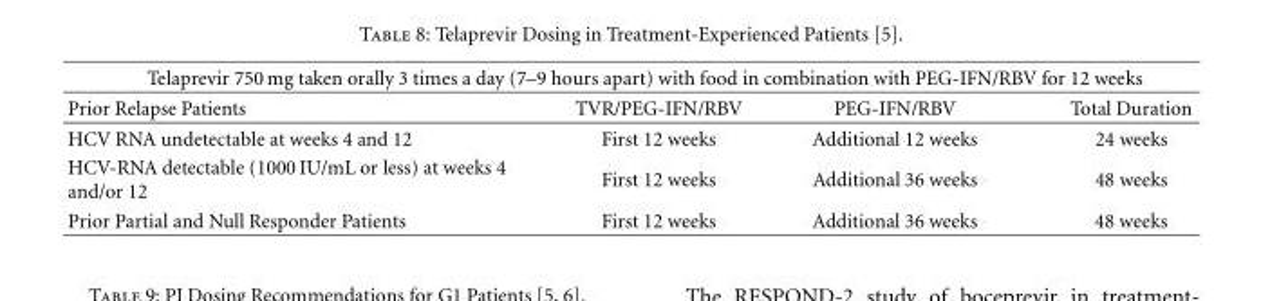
<table><thead><tr><td colspan="4">Telaprevir 750 mg taken orally 3 times a day (7–9 hours apart) with food in combination with PEG-IFN/RBV for 12 weeks</td></tr><tr><td>Prior Relapse Patients</td><td>TVR/PEG-IFN/RBV</td><td>PEG-IFN/RBV</td><td>Total Duration</td></tr></thead><tbody><tr><td>HCV RNA undetectable at weeks 4 and 12</td><td>First 12 weeks</td><td>Additional 12 weeks</td><td>24 weeks</td></tr><tr><td>HCV-RNA detectable (1000 IU/mL or less) at weeks 4 and/or 12</td><td>First 12 weeks</td><td>Additional 36 weeks</td><td>48 weeks</td></tr><tr><td>Prior Partial and Null Responder Patients</td><td>First 12 weeks</td><td>Additional 36 weeks</td><td>48 weeks</td></tr></tbody></table>